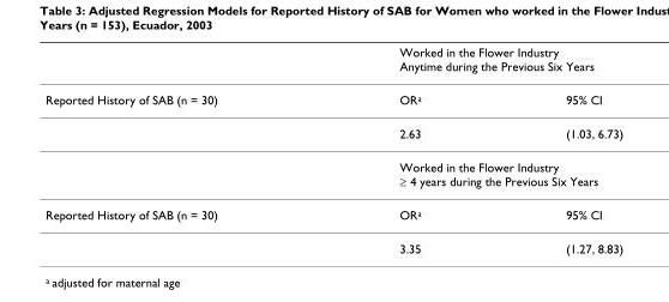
<table><thead><tr><td rowspan="2">Reported History of SAB (n = 30)</td><td colspan="2">Worked in the Flower Industry Anytime during the Previous Six Years</td></tr><tr><td>OR<sup>a</sup></td><td>95% CI</td></tr></thead><tbody><tr><td></td><td>2.63</td><td>(1.03, 6.73)</td></tr><tr><td></td><td colspan="2">Worked in the Flower Industry ≥ 4 years during the Previous Six Years</td></tr><tr><td rowspan="2">Reported History of SAB (n = 30)</td><td>OR<sup>a</sup></td><td>95% CI</td></tr><tr><td>3.35</td><td>(1.27, 8.83)</td></tr></tbody></table>